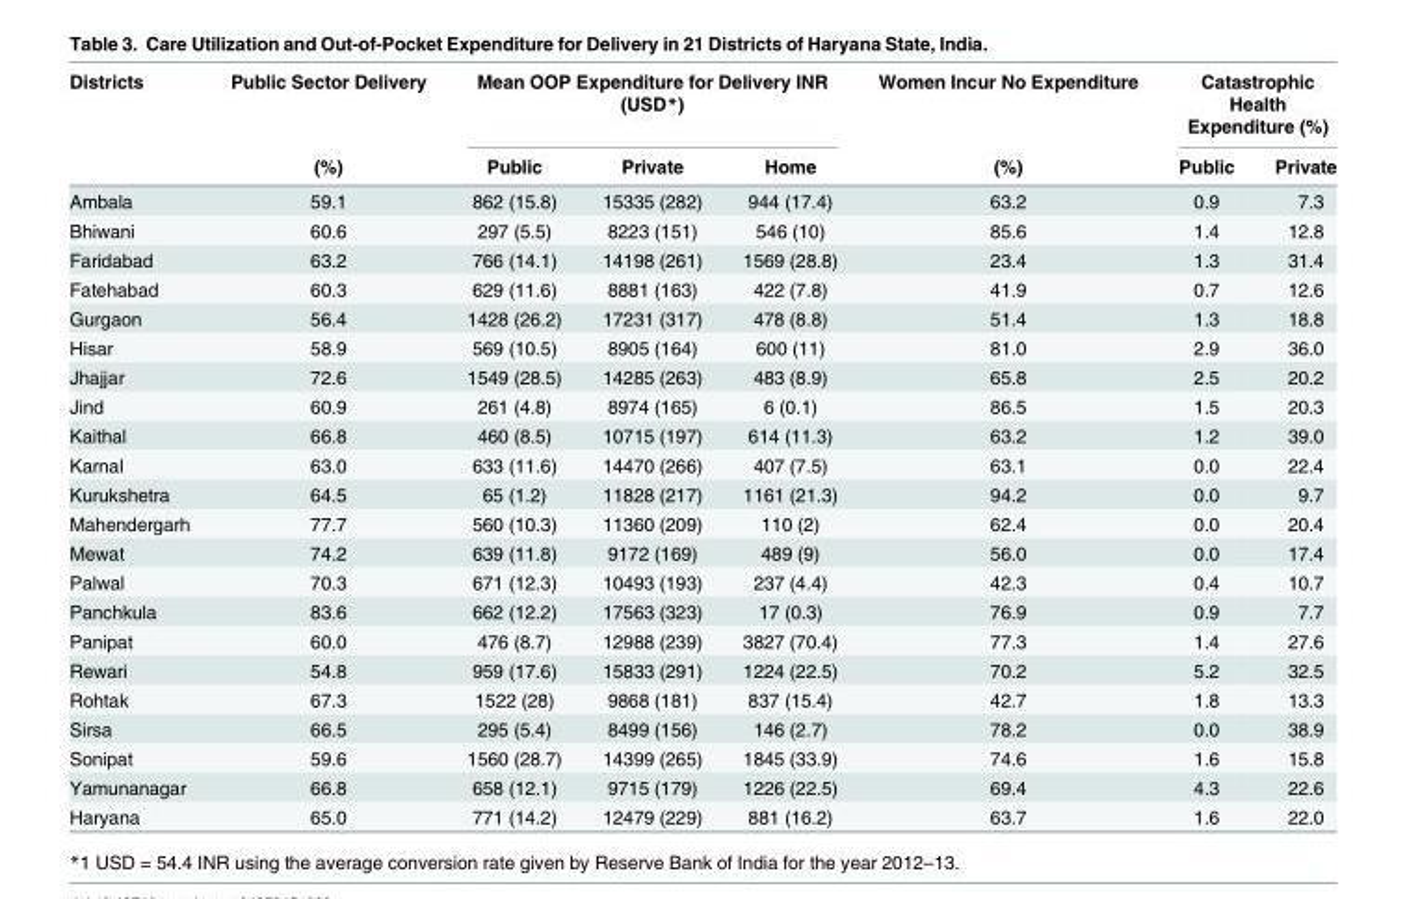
<table><thead><tr><td rowspan="2">Districts</td><td rowspan="2">Public Sector Delivery (%)</td><td colspan="3">Mean OOP Expenditure for Delivery INR (USD*)</td><td rowspan="2">Women Incur No Expenditure (%)</td><td colspan="2">Catastrophic Health Expenditure (%)</td></tr><tr><td>Public</td><td>Private</td><td>Home</td><td>Public</td><td>Private</td></tr></thead><tbody><tr><td>Ambala</td><td>59.1</td><td>862 (15.8)</td><td>15335 (282)</td><td>944 (17.4)</td><td>63.2</td><td>0.9</td><td>7.3</td></tr><tr><td>Bhiwani</td><td>60.6</td><td>297 (5.5)</td><td>8223 (151)</td><td>546 (10)</td><td>85.6</td><td>1.4</td><td>12.8</td></tr><tr><td>Faridabad</td><td>63.2</td><td>766 (14.1)</td><td>14198 (261)</td><td>1569 (28.8)</td><td>23.4</td><td>1.3</td><td>31.4</td></tr><tr><td>Fatehabad</td><td>60.3</td><td>629 (11.6)</td><td>8881 (163)</td><td>422 (7.8)</td><td>41.9</td><td>0.7</td><td>12.6</td></tr><tr><td>Gurgaon</td><td>56.4</td><td>1428 (26.2)</td><td>17231 (317)</td><td>478 (8.8)</td><td>51.4</td><td>1.3</td><td>18.8</td></tr><tr><td>Hisar</td><td>58.9</td><td>569 (10.5)</td><td>8905 (164)</td><td>600 (11)</td><td>81.0</td><td>2.9</td><td>36.0</td></tr><tr><td>Jhajjar</td><td>72.6</td><td>1549 (28.5)</td><td>14285 (263)</td><td>483 (8.9)</td><td>65.8</td><td>2.5</td><td>20.2</td></tr><tr><td>Jind</td><td>60.9</td><td>261 (4.8)</td><td>8974 (165)</td><td>6 (0.1)</td><td>86.5</td><td>1.5</td><td>20.3</td></tr><tr><td>Kaithal</td><td>66.8</td><td>460 (8.5)</td><td>10715 (197)</td><td>614 (11.3)</td><td>63.2</td><td>1.2</td><td>39.0</td></tr><tr><td>Karnal</td><td>63.0</td><td>633 (11.6)</td><td>14470 (266)</td><td>407 (7.5)</td><td>63.1</td><td>0.0</td><td>22.4</td></tr><tr><td>Kurukshetra</td><td>64.5</td><td>65 (1.2)</td><td>11828 (217)</td><td>1161 (21.3)</td><td>94.2</td><td>0.0</td><td>9.7</td></tr><tr><td>Mahendergarh</td><td>77.7</td><td>560 (10.3)</td><td>11360 (209)</td><td>110 (2)</td><td>62.4</td><td>0.0</td><td>20.4</td></tr><tr><td>Mewat</td><td>74.2</td><td>639 (11.8)</td><td>9172 (169)</td><td>489 (9)</td><td>56.0</td><td>0.0</td><td>17.4</td></tr><tr><td>Palwal</td><td>70.3</td><td>671 (12.3)</td><td>10493 (193)</td><td>237 (4.4)</td><td>42.3</td><td>0.4</td><td>10.7</td></tr><tr><td>Panchkula</td><td>83.6</td><td>662 (12.2)</td><td>17563 (323)</td><td>17 (0.3)</td><td>76.9</td><td>0.9</td><td>7.7</td></tr><tr><td>Panipat</td><td>60.0</td><td>476 (8.7)</td><td>12988 (239)</td><td>3827 (70.4)</td><td>77.3</td><td>1.4</td><td>27.6</td></tr><tr><td>Rewari</td><td>54.8</td><td>959 (17.6)</td><td>15833 (291)</td><td>1224 (22.5)</td><td>70.2</td><td>5.2</td><td>32.5</td></tr><tr><td>Rohtak</td><td>67.3</td><td>1522 (28)</td><td>9868 (181)</td><td>837 (15.4)</td><td>42.7</td><td>1.8</td><td>13.3</td></tr><tr><td>Sirsa</td><td>66.5</td><td>295 (5.4)</td><td>8499 (156)</td><td>146 (2.7)</td><td>78.2</td><td>0.0</td><td>38.9</td></tr><tr><td>Sonipat</td><td>59.6</td><td>1560 (28.7)</td><td>14399 (265)</td><td>1845 (33.9)</td><td>74.6</td><td>1.6</td><td>15.8</td></tr><tr><td>Yamunanagar</td><td>66.8</td><td>658 (12.1)</td><td>9715 (179)</td><td>1226 (22.5)</td><td>69.4</td><td>4.3</td><td>22.6</td></tr><tr><td>Haryana</td><td>65.0</td><td>771 (14.2)</td><td>12479 (229)</td><td>881 (16.2)</td><td>63.7</td><td>1.6</td><td>22.0</td></tr></tbody></table>